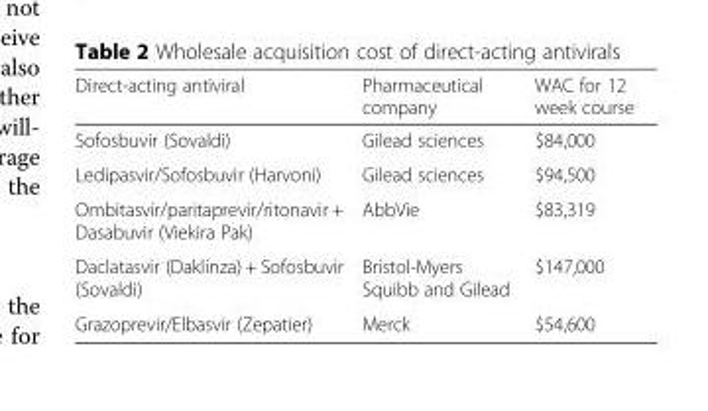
<table><thead><tr><td>Direct-acting antiviral</td><td>Pharmaceutical company</td><td>WAC for 12 week course</td></tr></thead><tbody><tr><td>Sofosbuvir (Sovaldi)</td><td>Gilead sciences</td><td>$84,000</td></tr><tr><td>Ledipasvir/Sofosbuvir (Harvoni)</td><td>Gilead sciences</td><td>$94,500</td></tr><tr><td>Ombitasvir/paritaprevir/ritonavir + Dasabuvir (Viekira Pak)</td><td>AbbVie</td><td>$83,319</td></tr><tr><td>Daclatasvir (Daklinza) + Sofosbuvir (Sovaldi)</td><td>Bristol-Myers Squibb and Gilead</td><td>$147,000</td></tr><tr><td>Grazoprevir/Elbasvir (Zepatier)</td><td>Merck</td><td>$54,600</td></tr></tbody></table>